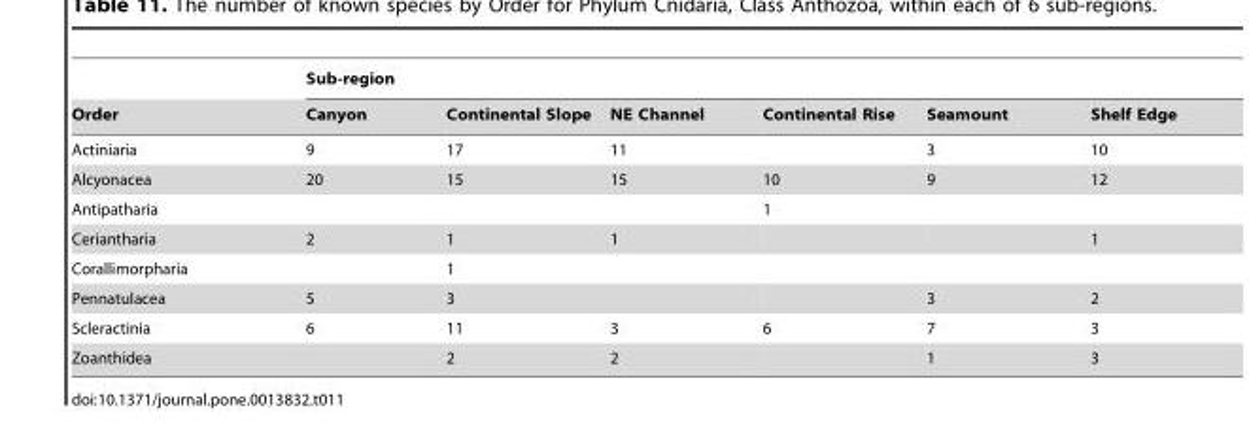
<table><thead><tr><td rowspan="2">Order</td><td colspan="6">Sub-region</td></tr><tr><td>Canyon</td><td>Continental Slope</td><td>NE Channel</td><td>Continental Rise</td><td>Seamount</td><td>Shelf Edge</td></tr></thead><tbody><tr><td>Actiniaria</td><td>9</td><td>17</td><td>11</td><td></td><td>3</td><td>10</td></tr><tr><td>Alcyonacea</td><td>20</td><td>15</td><td>15</td><td>10</td><td>9</td><td>12</td></tr><tr><td>Antipatharia</td><td></td><td></td><td></td><td>1</td><td></td><td></td></tr><tr><td>Ceriantharia</td><td>2</td><td>1</td><td>1</td><td></td><td></td><td>1</td></tr><tr><td>Corallimorpharia</td><td></td><td>1</td><td></td><td></td><td></td><td></td></tr><tr><td>Pennatulacea</td><td>5</td><td>3</td><td></td><td></td><td>3</td><td>2</td></tr><tr><td>Scleractinia</td><td>6</td><td>11</td><td>3</td><td>6</td><td>7</td><td>3</td></tr><tr><td>Zoanthidea</td><td></td><td>2</td><td>2</td><td></td><td>1</td><td>3</td></tr></tbody></table>